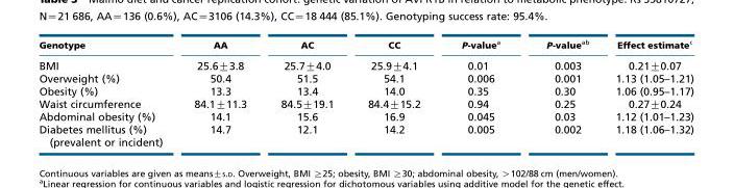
<table><thead><tr><td>Genotype</td><td>AA</td><td>AC</td><td>CC</td><td>P-value<sup>a</sup></td><td>P-value<sup>ab</sup></td><td>Effect estimate<sup>c</sup></td></tr></thead><tbody><tr><td>BMI</td><td>25.6±3.8</td><td>25.7±4.0</td><td>25.9±4.1</td><td>0.01</td><td>0.003</td><td>0.21±0.07</td></tr><tr><td>Overweight (%)</td><td>50.4</td><td>51.5</td><td>54.1</td><td>0.006</td><td>0.001</td><td>1.13 (1.05–1.21)</td></tr><tr><td>Obesity (%)</td><td>13.3</td><td>13.4</td><td>14.0</td><td>0.35</td><td>0.30</td><td>1.06 (0.95–1.17)</td></tr><tr><td>Waist circumference</td><td>84.1±11.3</td><td>84.5±19.1</td><td>84.4±15.2</td><td>0.94</td><td>0.25</td><td>0.27±0.24</td></tr><tr><td>Abdominal obesity (%)</td><td>14.1</td><td>15.6</td><td>16.9</td><td>0.045</td><td>0.03</td><td>1.12 (1.01–1.23)</td></tr><tr><td>Diabetes mellitus (%) (prevalent or incident)</td><td>14.7</td><td>12.1</td><td>14.2</td><td>0.005</td><td>0.002</td><td>1.18 (1.06–1.32)</td></tr></tbody></table>